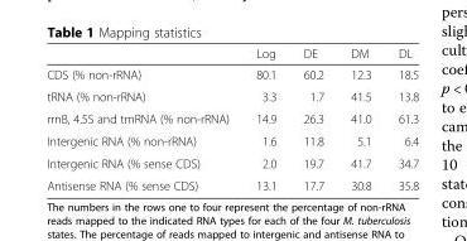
<table><thead><tr><td></td><td>Log</td><td>DE</td><td>DM</td><td>DL</td></tr></thead><tbody><tr><td>CDS (% non-rRNA)</td><td>80.1</td><td>60.2</td><td>12.3</td><td>18.5</td></tr><tr><td>tRNA (% non-rRNA)</td><td>3.3</td><td>1.7</td><td>41.5</td><td>13.8</td></tr><tr><td>rrnB, 4.5S and tmRNA (% non-rRNA)</td><td>14.9</td><td>26.3</td><td>41.0</td><td>61.3</td></tr><tr><td>Intergenic RNA (% non-rRNA)</td><td>1.6</td><td>11.8</td><td>5.1</td><td>6.4</td></tr><tr><td>Intergenic RNA (% sense CDS)</td><td>2.0</td><td>19.7</td><td>41.7</td><td>34.7</td></tr><tr><td>Antisense RNA (% sense CDS)</td><td>13.1</td><td>17.7</td><td>30.8</td><td>35.8</td></tr></tbody></table>